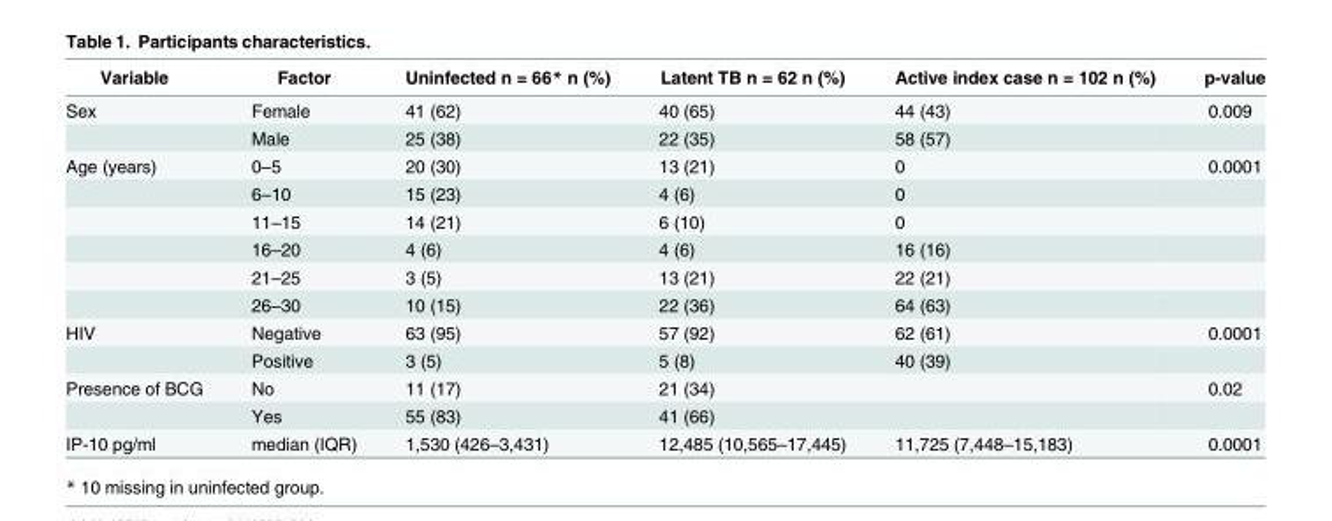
<table><thead><tr><td>Variable</td><td>Factor</td><td>Uninfected n = 66* n (%)</td><td>Latent TB n = 62 n (%)</td><td>Active index case n = 102 n (%)</td><td>p-value</td></tr></thead><tbody><tr><td rowspan="2">Sex</td><td>Female</td><td>41 (62)</td><td>40 (65)</td><td>44 (43)</td><td>0.009</td></tr><tr><td>Male</td><td>25 (38)</td><td>22 (35)</td><td>58 (57)</td><td></td></tr><tr><td rowspan="6">Age (years)</td><td>0–5</td><td>20 (30)</td><td>13 (21)</td><td>0</td><td>0.0001</td></tr><tr><td>6–10</td><td>15 (23)</td><td>4 (6)</td><td>0</td><td></td></tr><tr><td>11–15</td><td>14 (21)</td><td>6 (10)</td><td>0</td><td></td></tr><tr><td>16–20</td><td>4 (6)</td><td>4 (6)</td><td>16 (16)</td><td></td></tr><tr><td>21–25</td><td>3 (5)</td><td>13 (21)</td><td>22 (21)</td><td></td></tr><tr><td>26–30</td><td>10 (15)</td><td>22 (36)</td><td>64 (63)</td><td></td></tr><tr><td rowspan="2">HIV</td><td>Negative</td><td>63 (95)</td><td>57 (92)</td><td>62 (61)</td><td>0.0001</td></tr><tr><td>Positive</td><td>3 (5)</td><td>5 (8)</td><td>40 (39)</td><td></td></tr><tr><td rowspan="2">Presence of BCG</td><td>No</td><td>11 (17)</td><td>21 (34)</td><td></td><td>0.02</td></tr><tr><td>Yes</td><td>55 (83)</td><td>41 (66)</td><td></td><td></td></tr><tr><td>IP-10 pg/ml</td><td>median (IQR)</td><td>1,530 (426–3,431)</td><td>12,485 (10,565–17,445)</td><td>11,725 (7,448–15,183)</td><td>0.0001</td></tr></tbody></table>